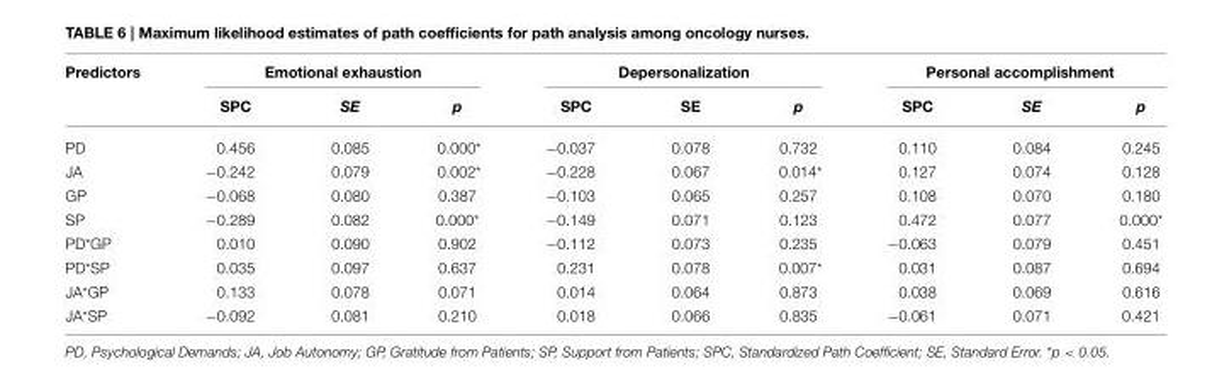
<table><thead><tr><td rowspan="2">Predictors</td><td colspan="3">Emotional exhaustion</td><td colspan="3">Depersonalization</td><td colspan="3">Personal accomplishment</td></tr><tr><td>SPC</td><td>SE</td><td>p</td><td>SPC</td><td>SE</td><td>p</td><td>SPC</td><td>SE</td><td>p</td></tr></thead><tbody><tr><td>PD</td><td>0.456</td><td>0.085</td><td>0.000*</td><td>−0.037</td><td>0.078</td><td>0.732</td><td>0.110</td><td>0.084</td><td>0.245</td></tr><tr><td>JA</td><td>−0.242</td><td>0.079</td><td>0.002*</td><td>−0.228</td><td>0.067</td><td>0.014*</td><td>0.127</td><td>0.074</td><td>0.128</td></tr><tr><td>GP</td><td>−0.068</td><td>0.080</td><td>0.387</td><td>−0.103</td><td>0.065</td><td>0.257</td><td>0.108</td><td>0.070</td><td>0.180</td></tr><tr><td>SP</td><td>−0.289</td><td>0.082</td><td>0.000*</td><td>−0.149</td><td>0.071</td><td>0.123</td><td>0.472</td><td>0.077</td><td>0.000*</td></tr><tr><td>PD*GP</td><td>0.010</td><td>0.090</td><td>0.902</td><td>−0.112</td><td>0.073</td><td>0.235</td><td>−0.063</td><td>0.079</td><td>0.451</td></tr><tr><td>PD*SP</td><td>0.035</td><td>0.097</td><td>0.637</td><td>0.231</td><td>0.078</td><td>0.007*</td><td>0.031</td><td>0.087</td><td>0.694</td></tr><tr><td>JA*GP</td><td>0.133</td><td>0.078</td><td>0.071</td><td>0.014</td><td>0.064</td><td>0.873</td><td>0.038</td><td>0.069</td><td>0.616</td></tr><tr><td>JA*SP</td><td>−0.092</td><td>0.081</td><td>0.210</td><td>0.018</td><td>0.066</td><td>0.835</td><td>−0.061</td><td>0.071</td><td>0.421</td></tr></tbody></table>